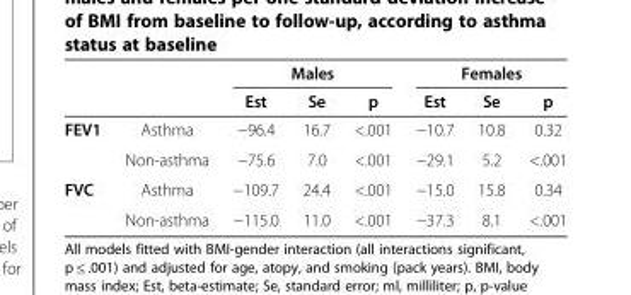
<table><thead><tr><td rowspan="2"></td><td rowspan="2"></td><td colspan="3">Males</td><td colspan="3">Females</td></tr><tr><td>Est</td><td>Se</td><td>p</td><td>Est</td><td>Se</td><td>p</td></tr></thead><tbody><tr><td rowspan="2">FEV1</td><td>Asthma</td><td>−96.4</td><td>16.7</td><td>&lt;.001</td><td>−10.7</td><td>10.8</td><td>0.32</td></tr><tr><td>Non-asthma</td><td>−75.6</td><td>7.0</td><td>&lt;.001</td><td>−29.1</td><td>5.2</td><td>&lt;.001</td></tr><tr><td rowspan="2">FVC</td><td>Asthma</td><td>−109.7</td><td>24.4</td><td>&lt;.001</td><td>−15.0</td><td>15.8</td><td>0.34</td></tr><tr><td>Non-asthma</td><td>−115.0</td><td>11.0</td><td>&lt;.001</td><td>−37.3</td><td>8.1</td><td>&lt;.001</td></tr></tbody></table>